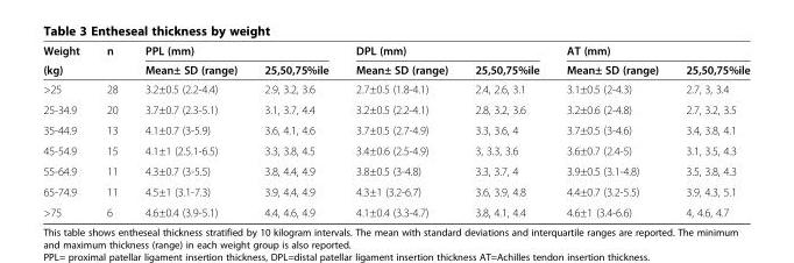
<table><thead><tr><td rowspan="2">Weight (kg)</td><td rowspan="2">n</td><td colspan="2">PPL (mm)</td><td colspan="2">DPL (mm)</td><td colspan="2">AT (mm)</td></tr><tr><td>Mean± SD (range)</td><td>25,50,75%ile</td><td>Mean± SD (range)</td><td>25,50,75%ile</td><td>Mean± SD (range)</td><td>25,50,75%ile</td></tr></thead><tbody><tr><td>&gt;25</td><td>28</td><td>3.2±0.5 (2.2-4.4)</td><td>2.9, 3.2, 3.6</td><td>2.7±0.5 (1.8-4.1)</td><td>2.4, 2.6, 3.1</td><td>3.1±0.5 (2-4.3)</td><td>2.7, 3, 3.4</td></tr><tr><td>25-34.9</td><td>20</td><td>3.7±0.7 (2.3-5.1)</td><td>3.1, 3.7, 4.4</td><td>3.2±0.5 (2.2-4.1)</td><td>2.8, 3.2, 3.6</td><td>3.2±0.6 (2-4.8)</td><td>2.7, 3.2, 3.5</td></tr><tr><td>35-44.9</td><td>13</td><td>4.1±0.7 (3-5.9)</td><td>3.6, 4.1, 4.6</td><td>3.7±0.5 (2.7-4.9)</td><td>3.3, 3.6, 4</td><td>3.7±0.5 (3-4.6)</td><td>3.4, 3.8, 4.1</td></tr><tr><td>45-54.9</td><td>15</td><td>4.1±1 (2.5.1-6.5)</td><td>3.3, 3.8, 4.5</td><td>3.4±0.6 (2.5-4.9)</td><td>3, 3.3, 3.6</td><td>3.6±0.7 (2.4-5)</td><td>3.1, 3.5, 4.3</td></tr><tr><td>55-64.9</td><td>11</td><td>4.3±0.7 (3-5.5)</td><td>3.8, 4.4, 4.9</td><td>3.8±0.5 (3-4.8)</td><td>3.3, 3.7, 4</td><td>3.9±0.5 (3.1-4.8)</td><td>3.5, 3.8, 4.3</td></tr><tr><td>65-74.9</td><td>11</td><td>4.5±1 (3.1-7.3)</td><td>3.9, 4.4, 4.9</td><td>4.3±1 (3.2-6.7)</td><td>3.6, 3.9, 4.8</td><td>4.4±0.7 (3.2-5.5)</td><td>3.9, 4.3, 5.1</td></tr><tr><td>&gt;75</td><td>6</td><td>4.6±0.4 (3.9-5.1)</td><td>4.4, 4.6, 4.9</td><td>4.1±0.4 (3.3-4.7)</td><td>3.8, 4.1, 4.4</td><td>4.6±1 (3.4-6.6)</td><td>4, 4.6, 4.7</td></tr></tbody></table>